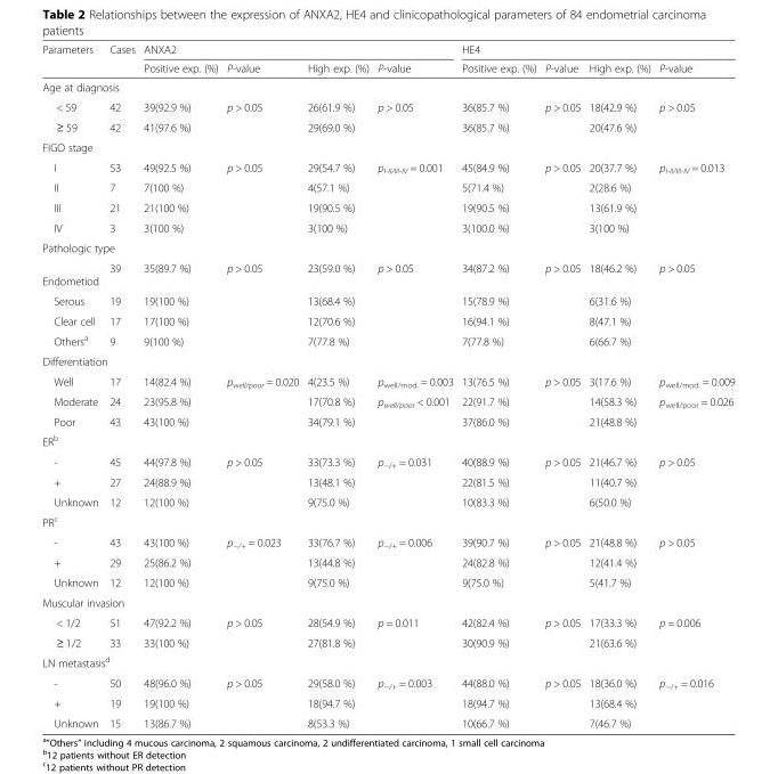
<table><thead><tr><td rowspan="2">Parameters</td><td rowspan="2">Cases</td><td colspan="4">ANXA2</td><td colspan="4">HE4</td></tr><tr><td>Positive exp. (%)</td><td>P-value</td><td>High exp. (%)</td><td>P-value</td><td>Positive exp. (%)</td><td>P-value</td><td>High exp. (%)</td><td>P-value</td></tr></thead><tbody><tr><td colspan="10">Age at diagnosis</td></tr><tr><td>&lt; 59</td><td>42</td><td>39(92.9 %)</td><td rowspan="2">p &gt; 0.05</td><td>26(61.9 %)</td><td rowspan="2">p &gt; 0.05</td><td>36(85.7 %)</td><td rowspan="2">p &gt; 0.05</td><td>18(42.9 %)</td><td rowspan="2">p &gt; 0.05</td></tr><tr><td>≥ 59</td><td>42</td><td>41(97.6 %)</td><td>29(69.0 %)</td><td>36(85.7 %)</td><td>20(47.6 %)</td></tr><tr><td colspan="10">FIGO stage</td></tr><tr><td>I</td><td>53</td><td>49(92.5 %)</td><td rowspan="4">p &gt; 0.05</td><td>29(54.7 %)</td><td rowspan="4">p<sub>I-II/III-IV</sub> = 0.001</td><td>45(84.9 %)</td><td rowspan="4">p &gt; 0.05</td><td>20(37.7 %)</td><td rowspan="4">p<sub>I-II/III-IV</sub> = 0.013</td></tr><tr><td>II</td><td>7</td><td>7(100 %)</td><td>4(57.1 %)</td><td>5(71.4 %)</td><td>2(28.6 %)</td></tr><tr><td>III</td><td>21</td><td>21(100 %)</td><td>19(90.5 %)</td><td>19(90.5 %)</td><td>13(61.9 %)</td></tr><tr><td>IV</td><td>3</td><td>3(100 %)</td><td>3(100 %)</td><td>3(100.0 %)</td><td>3(100 %)</td></tr><tr><td colspan="10">Pathologic type</td></tr><tr><td>Endometiod</td><td>39</td><td>35(89.7 %)</td><td rowspan="4">p &gt; 0.05</td><td>23(59.0 %)</td><td rowspan="4">p &gt; 0.05</td><td>34(87.2 %)</td><td rowspan="4">p &gt; 0.05</td><td>18(46.2 %)</td><td rowspan="4">p &gt; 0.05</td></tr><tr><td>Serous</td><td>19</td><td>19(100 %)</td><td>13(68.4 %)</td><td>15(78.9 %)</td><td>6(31.6 %)</td></tr><tr><td>Clear cell</td><td>17</td><td>17(100 %)</td><td>12(70.6 %)</td><td>16(94.1 %)</td><td>8(47.1 %)</td></tr><tr><td>Others<sup>a</sup></td><td>9</td><td>9(100 %)</td><td>7(77.8 %)</td><td>7(77.8 %)</td><td>6(66.7 %)</td></tr><tr><td colspan="10">Differentiation</td></tr><tr><td>Well</td><td>17</td><td>14(82.4 %)</td><td rowspan="3">p<sub>well/poor</sub> = 0.020</td><td>4(23.5 %)</td><td>p<sub>well/mod.</sub> = 0.003</td><td>13(76.5 %)</td><td rowspan="3">p &gt; 0.05</td><td>3(17.6 %)</td><td>p<sub>well/mod.</sub> = 0.009</td></tr><tr><td>Moderate</td><td>24</td><td>23(95.8 %)</td><td>17(70.8 %)</td><td rowspan="2">p<sub>well/poor</sub> &lt; 0.001</td><td>22(91.7 %)</td><td>14(58.3 %)</td><td rowspan="2">p<sub>well/poor</sub> = 0.026</td></tr><tr><td>Poor</td><td>43</td><td>43(100 %)</td><td>34(79.1 %)</td><td>37(86.0 %)</td><td>21(48.8 %)</td></tr><tr><td colspan="10">ER<sup>b</sup></td></tr><tr><td>-</td><td>45</td><td>44(97.8 %)</td><td rowspan="3">p &gt; 0.05</td><td>33(73.3 %)</td><td rowspan="3">p<sub>−/+</sub> = 0.031</td><td>40(88.9 %)</td><td rowspan="3">p &gt; 0.05</td><td>21(46.7 %)</td><td rowspan="3">p &gt; 0.05</td></tr><tr><td>+</td><td>27</td><td>24(88.9 %)</td><td>13(48.1 %)</td><td>22(81.5 %)</td><td>11(40.7 %)</td></tr><tr><td>Unknown</td><td>12</td><td>12(100 %)</td><td>9(75.0 %)</td><td>10(83.3 %)</td><td>6(50.0 %)</td></tr><tr><td colspan="10">PR<sup>c</sup></td></tr><tr><td>-</td><td>43</td><td>43(100 %)</td><td rowspan="3">p<sub>−/+</sub> = 0.023</td><td>33(76.7 %)</td><td rowspan="3">p<sub>−/+</sub> = 0.006</td><td>39(90.7 %)</td><td rowspan="3">p &gt; 0.05</td><td>21(48.8 %)</td><td rowspan="3">p &gt; 0.05</td></tr><tr><td>+</td><td>29</td><td>25(86.2 %)</td><td>13(44.8 %)</td><td>24(82.8 %)</td><td>12(41.4 %)</td></tr><tr><td>Unknown</td><td>12</td><td>12(100 %)</td><td>9(75.0 %)</td><td>9(75.0 %)</td><td>5(41.7 %)</td></tr><tr><td colspan="10">Muscular invasion</td></tr><tr><td>&lt; 1/2</td><td>51</td><td>47(92.2 %)</td><td rowspan="2">p &gt; 0.05</td><td>28(54.9 %)</td><td rowspan="2">p = 0.011</td><td>42(82.4 %)</td><td rowspan="2">p &gt; 0.05</td><td>17(33.3 %)</td><td rowspan="2">p = 0.006</td></tr><tr><td>≥ 1/2</td><td>33</td><td>33(100 %)</td><td>27(81.8 %)</td><td>30(90.9 %)</td><td>21(63.6 %)</td></tr><tr><td colspan="10">LN metastasis<sup>d</sup></td></tr><tr><td>-</td><td>50</td><td>48(96.0 %)</td><td rowspan="3">p &gt; 0.05</td><td>29(58.0 %)</td><td rowspan="3">p<sub>−/+</sub> = 0.003</td><td>44(88.0 %)</td><td rowspan="3">p &gt; 0.05</td><td>18(36.0 %)</td><td rowspan="3">p<sub>−/+</sub> = 0.016</td></tr><tr><td>+</td><td>19</td><td>19(100 %)</td><td>18(94.7 %)</td><td>18(94.7 %)</td><td>13(68.4 %)</td></tr><tr><td>Unknown</td><td>15</td><td>13(86.7 %)</td><td>8(53.3 %)</td><td>10(66.7 %)</td><td>7(46.7 %)</td></tr></tbody></table>